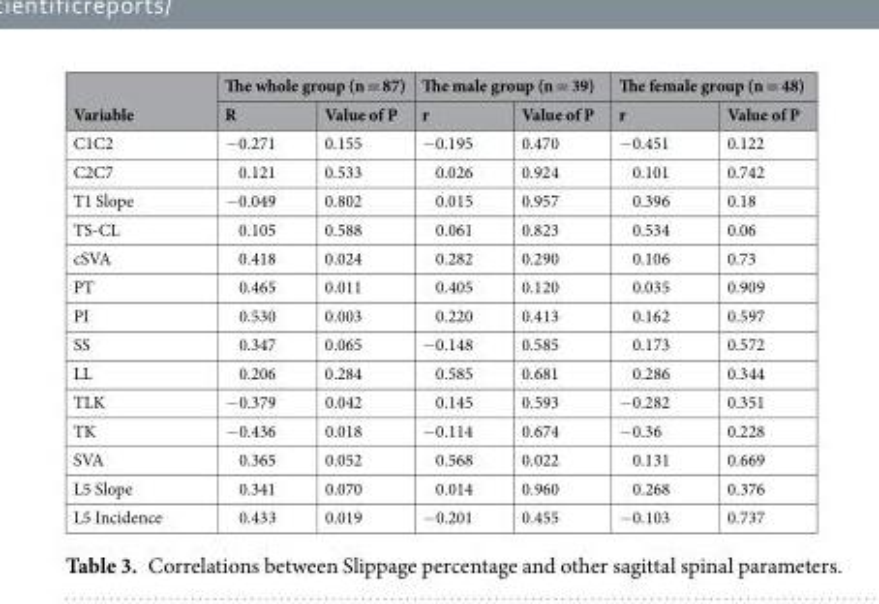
<table><thead><tr><td rowspan="2">Variable</td><td colspan="2">The whole group (n = 87)</td><td colspan="2">The male group (n = 39)</td><td colspan="2">The female group (n = 48)</td></tr><tr><td>R</td><td>Value of P</td><td>r</td><td>Value of P</td><td>r</td><td>Value of P</td></tr></thead><tbody><tr><td>C1C2</td><td>−0.271</td><td>0.155</td><td>−0.195</td><td>0.470</td><td>−0.451</td><td>0.122</td></tr><tr><td>C2C7</td><td>0.121</td><td>0.533</td><td>0.026</td><td>0.924</td><td>0.101</td><td>0.742</td></tr><tr><td>T1 Slope</td><td>−0.049</td><td>0.802</td><td>0.015</td><td>0.957</td><td>0.396</td><td>0.18</td></tr><tr><td>TS-CL</td><td>0.105</td><td>0.588</td><td>0.061</td><td>0.823</td><td>0.534</td><td>0.06</td></tr><tr><td>cSVA</td><td>0.418</td><td>0.024</td><td>0.282</td><td>0.290</td><td>0.106</td><td>0.73</td></tr><tr><td>PT</td><td>0.465</td><td>0.011</td><td>0.405</td><td>0.120</td><td>0.035</td><td>0.909</td></tr><tr><td>PI</td><td>0.530</td><td>0.003</td><td>0.220</td><td>0.413</td><td>0.162</td><td>0.597</td></tr><tr><td>SS</td><td>0.347</td><td>0.065</td><td>−0.148</td><td>0.585</td><td>0.173</td><td>0.572</td></tr><tr><td>LL</td><td>0.206</td><td>0.284</td><td>0.585</td><td>0.681</td><td>0.286</td><td>0.344</td></tr><tr><td>TLK</td><td>−0.379</td><td>0.042</td><td>0.145</td><td>0.593</td><td>−0.282</td><td>0.351</td></tr><tr><td>TK</td><td>−0.436</td><td>0.018</td><td>−0.114</td><td>0.674</td><td>−0.36</td><td>0.228</td></tr><tr><td>SVA</td><td>0.365</td><td>0.052</td><td>0.568</td><td>0.022</td><td>0.131</td><td>0.669</td></tr><tr><td>L5 Slope</td><td>0.341</td><td>0.070</td><td>0.014</td><td>0.960</td><td>0.268</td><td>0.376</td></tr><tr><td>L5 Incidence</td><td>0.433</td><td>0.019</td><td>−0.201</td><td>0.455</td><td>−0.103</td><td>0.737</td></tr></tbody></table>